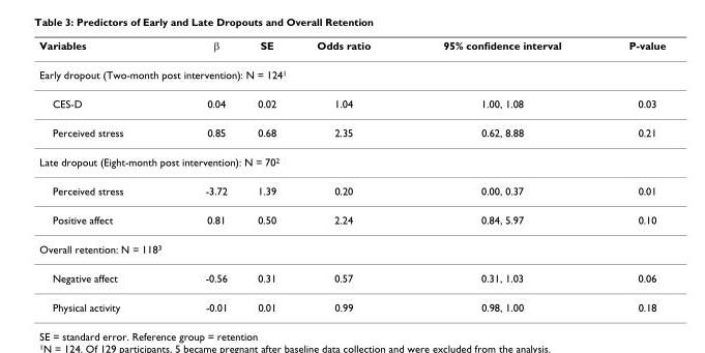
<table><thead><tr><td>Variables</td><td>β</td><td>SE</td><td>Odds ratio</td><td>95% confidence interval</td><td>P-value</td></tr></thead><tbody><tr><td colspan="6">Early dropout (Two-month post intervention): N = 124<sup>1</sup></td></tr><tr><td>CES-D</td><td>0.04</td><td>0.02</td><td>1.04</td><td>1.00, 1.08</td><td>0.03</td></tr><tr><td>Perceived stress</td><td>0.85</td><td>0.68</td><td>2.35</td><td>0.62, 8.88</td><td>0.21</td></tr><tr><td colspan="6">Late dropout (Eight-month post intervention): N = 70<sup>2</sup></td></tr><tr><td>Perceived stress</td><td>-3.72</td><td>1.39</td><td>0.20</td><td>0.00, 0.37</td><td>0.01</td></tr><tr><td>Positive affect</td><td>0.81</td><td>0.50</td><td>2.24</td><td>0.84, 5.97</td><td>0.10</td></tr><tr><td colspan="6">Overall retention: N = 118<sup>3</sup></td></tr><tr><td>Negative affect</td><td>-0.56</td><td>0.31</td><td>0.57</td><td>0.31, 1.03</td><td>0.06</td></tr><tr><td>Physical activity</td><td>-0.01</td><td>0.01</td><td>0.99</td><td>0.98, 1.00</td><td>0.18</td></tr></tbody></table>